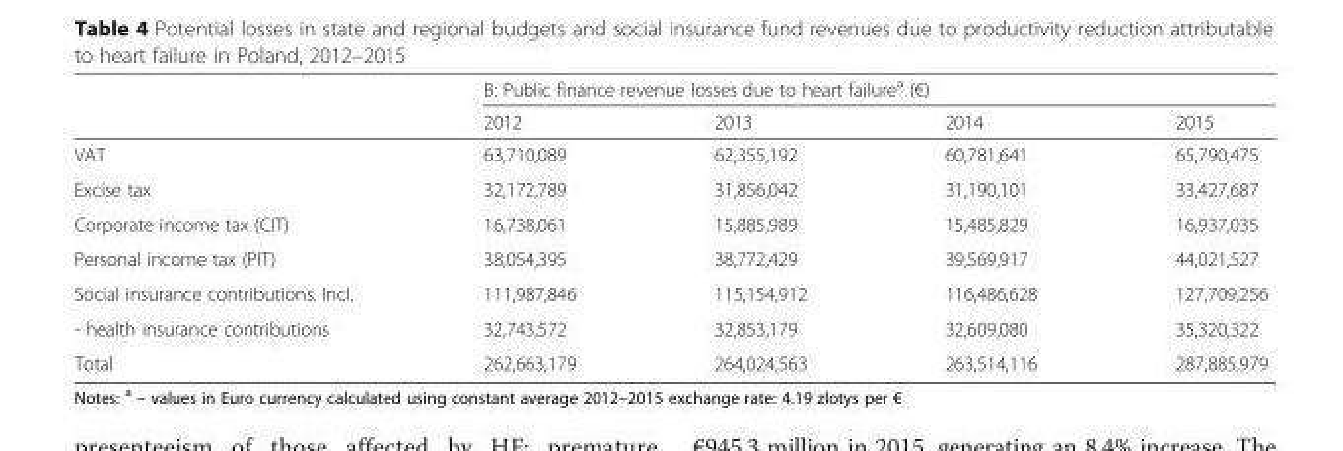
<table><thead><tr><td rowspan="2"></td><td colspan="4">B: Public finance revenue losses due to heart failure<sup>a</sup> (€)</td></tr><tr><td>2012</td><td>2013</td><td>2014</td><td>2015</td></tr></thead><tbody><tr><td>VAT</td><td>63,710,089</td><td>62,355,192</td><td>60,781,641</td><td>65,790,475</td></tr><tr><td>Excise tax</td><td>32,172,789</td><td>31,856,042</td><td>31,190,101</td><td>33,427,687</td></tr><tr><td>Corporate income tax (CIT)</td><td>16,738,061</td><td>15,885,989</td><td>15,485,829</td><td>16,937,035</td></tr><tr><td>Personal income tax (PIT)</td><td>38,054,395</td><td>38,772,429</td><td>39,569,917</td><td>44,021,527</td></tr><tr><td>Social insurance contributions. Incl.</td><td>111,987,846</td><td>115,154,912</td><td>116,486,628</td><td>127,709,256</td></tr><tr><td>- health insurance contributions</td><td>32,743,572</td><td>32,853,179</td><td>32,609,080</td><td>35,320,322</td></tr><tr><td>Total</td><td>262,663,179</td><td>264,024,563</td><td>263,514,116</td><td>287,885,979</td></tr></tbody></table>